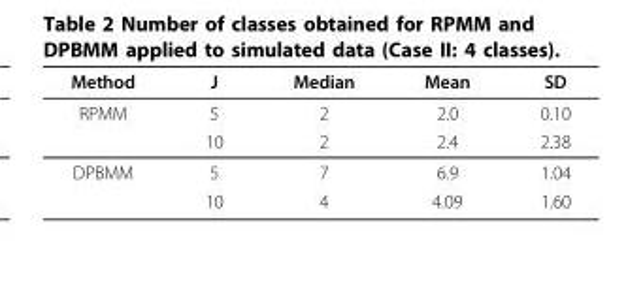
<table><thead><tr><td>Method</td><td>J</td><td>Median</td><td>Mean</td><td>SD</td></tr></thead><tbody><tr><td rowspan="2">RPMM</td><td>5</td><td>2</td><td>2.0</td><td>0.10</td></tr><tr><td>10</td><td>2</td><td>2.4</td><td>2.38</td></tr><tr><td rowspan="2">DPBMM</td><td>5</td><td>7</td><td>6.9</td><td>1.04</td></tr><tr><td>10</td><td>4</td><td>4.09</td><td>1.60</td></tr></tbody></table>